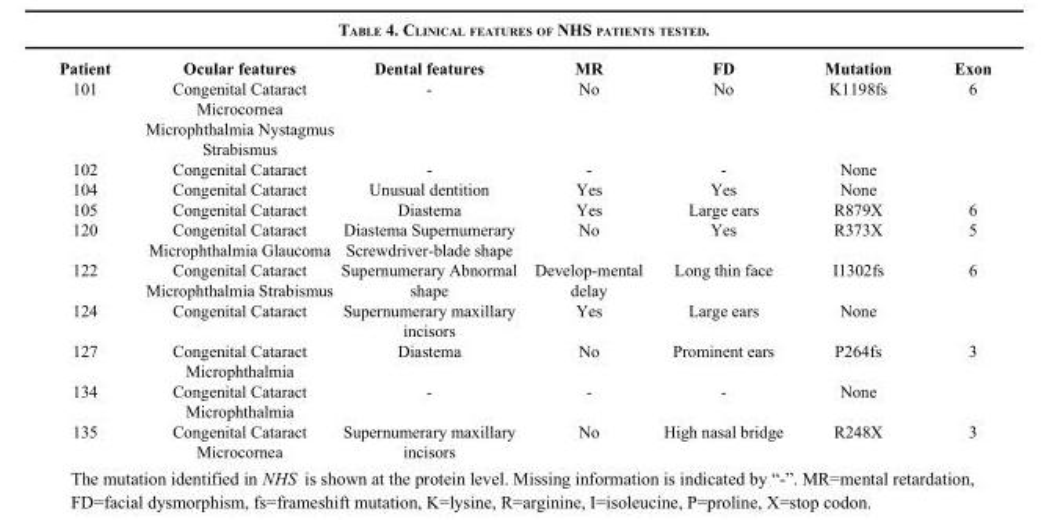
<table><thead><tr><td>Patient</td><td>Ocular features</td><td>Dental features</td><td>MR</td><td>FD</td><td>Mutation</td><td>Exon</td></tr></thead><tbody><tr><td>101</td><td>Congenital Cataract Microcornea Microphthalmia Nystagmus Strabismus</td><td>-</td><td>No</td><td>No</td><td>K1198fs</td><td>6</td></tr><tr><td>102</td><td>Congenital Cataract</td><td>-</td><td>-</td><td>-</td><td>None</td><td></td></tr><tr><td>104</td><td>Congenital Cataract</td><td>Unusual dentition</td><td>Yes</td><td>Yes</td><td>None</td><td></td></tr><tr><td>105</td><td>Congenital Cataract</td><td>Diastema</td><td>Yes</td><td>Large ears</td><td>R879X</td><td>6</td></tr><tr><td>120</td><td>Congenital Cataract Microphthalmia Glaucoma</td><td>Diastema Supernumerary Screwdriver-blade shape</td><td>No</td><td>Yes</td><td>R373X</td><td>5</td></tr><tr><td>122</td><td>Congenital Cataract Microphthalmia Strabismus</td><td>Supernumerary Abnormal shape</td><td>Develop-mental delay</td><td>Long thin face</td><td>I1302fs</td><td>6</td></tr><tr><td>124</td><td>Congenital Cataract</td><td>Supernumerary maxillary incisors</td><td>Yes</td><td>Large ears</td><td>None</td><td></td></tr><tr><td>127</td><td>Congenital Cataract Microphthalmia</td><td>Diastema</td><td>No</td><td>Prominent ears</td><td>P264fs</td><td>3</td></tr><tr><td>134</td><td>Congenital Cataract Microphthalmia</td><td>-</td><td>-</td><td>-</td><td>None</td><td></td></tr><tr><td>135</td><td>Congenital Cataract Microcornea</td><td>Supernumerary maxillary incisors</td><td>No</td><td>High nasal bridge</td><td>R248X</td><td>3</td></tr></tbody></table>